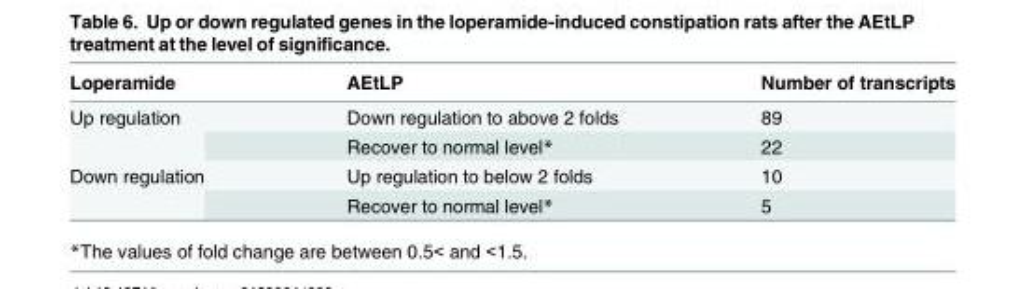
<table><thead><tr><td>Loperamide</td><td>AEtLP</td><td>Number of transcripts</td></tr></thead><tbody><tr><td rowspan="2">Up regulation</td><td>Down regulation to above 2 folds</td><td>89</td></tr><tr><td>Recover to normal level*</td><td>22</td></tr><tr><td rowspan="2">Down regulation</td><td>Up regulation to below 2 folds</td><td>10</td></tr><tr><td>Recover to normal level*</td><td>5</td></tr></tbody></table>